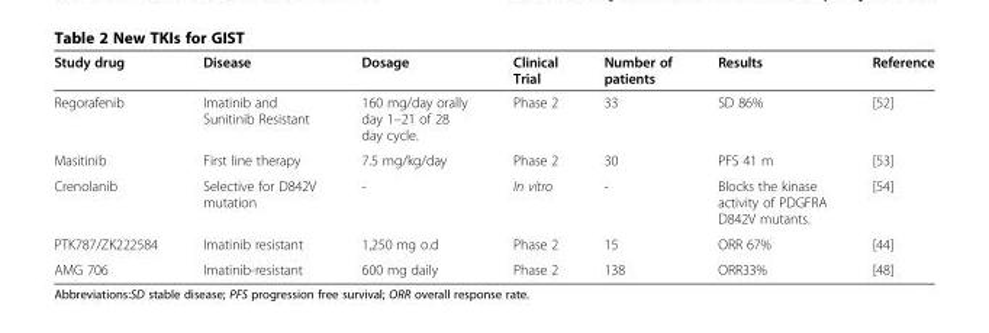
<table><thead><tr><td>Study drug</td><td>Disease</td><td>Dosage</td><td>Clinical Trial</td><td>Number of patients</td><td>Results</td><td>Reference</td></tr></thead><tbody><tr><td>Regorafenib</td><td>Imatinib and Sunitinib Resistant</td><td>160 mg/day orally day 1–21 of 28 day cycle.</td><td>Phase 2</td><td>33</td><td>SD 86%</td><td>[52]</td></tr><tr><td>Masitinib</td><td>First line therapy</td><td>7.5 mg/kg/day</td><td>Phase 2</td><td>30</td><td>PFS 41 m</td><td>[53]</td></tr><tr><td>Crenolanib</td><td>Selective for D842V mutation</td><td>-</td><td>In vitro</td><td>-</td><td>Blocks the kinase activity of PDGFRA D842V mutants.</td><td>[54]</td></tr><tr><td>PTK787/ZK222584</td><td>Imatinib resistant</td><td>1,250 mg o.d</td><td>Phase 2</td><td>15</td><td>ORR 67%</td><td>[44]</td></tr><tr><td>AMG 706</td><td>Imatinib-resistant</td><td>600 mg daily</td><td>Phase 2</td><td>138</td><td>ORR33%</td><td>[48]</td></tr></tbody></table>